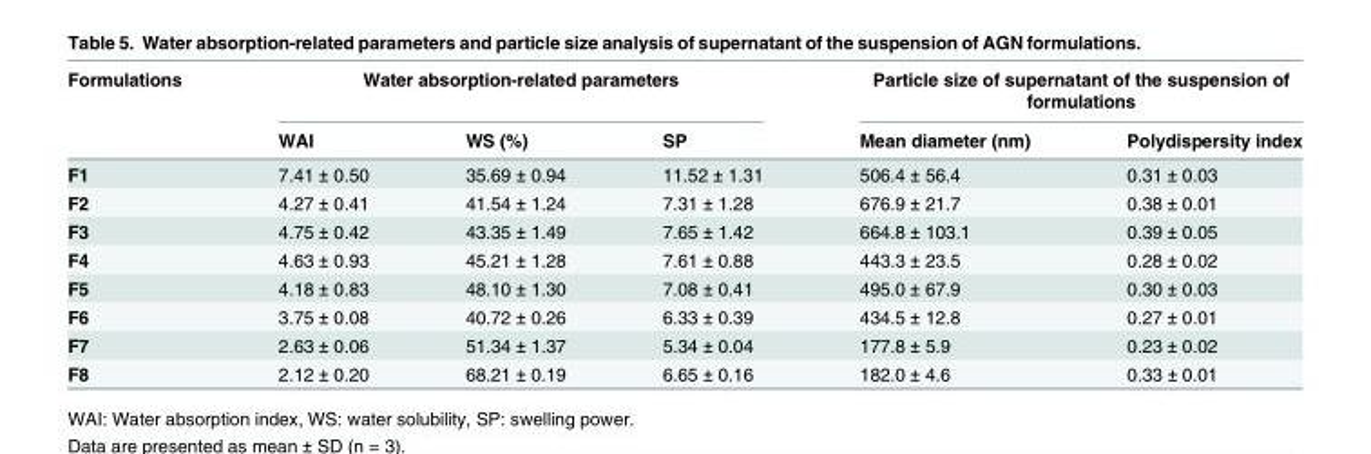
<table><thead><tr><td rowspan="2">Formulations</td><td colspan="3">Water absorption-related parameters</td><td colspan="2">Particle size of supernatant of the suspension of formulations</td></tr><tr><td>WAI</td><td>WS (%)</td><td>SP</td><td>Mean diameter (nm)</td><td>Polydispersity index</td></tr></thead><tbody><tr><td>F1</td><td>7.41 ± 0.50</td><td>35.69 ± 0.94</td><td>11.52 ± 1.31</td><td>506.4 ± 56.4</td><td>0.31 ± 0.03</td></tr><tr><td>F2</td><td>4.27 ± 0.41</td><td>41.54 ± 1.24</td><td>7.31 ± 1.28</td><td>676.9 ± 21.7</td><td>0.38 ± 0.01</td></tr><tr><td>F3</td><td>4.75 ± 0.42</td><td>43.35 ± 1.49</td><td>7.65 ± 1.42</td><td>664.8 ± 103.1</td><td>0.39 ± 0.05</td></tr><tr><td>F4</td><td>4.63 ± 0.93</td><td>45.21 ± 1.28</td><td>7.61 ± 0.88</td><td>443.3 ± 23.5</td><td>0.28 ± 0.02</td></tr><tr><td>F5</td><td>4.18 ± 0.83</td><td>48.10 ± 1.30</td><td>7.08 ± 0.41</td><td>495.0 ± 67.9</td><td>0.30 ± 0.03</td></tr><tr><td>F6</td><td>3.75 ± 0.08</td><td>40.72 ± 0.26</td><td>6.33 ± 0.39</td><td>434.5 ± 12.8</td><td>0.27 ± 0.01</td></tr><tr><td>F7</td><td>2.63 ± 0.06</td><td>51.34 ± 1.37</td><td>5.34 ± 0.04</td><td>177.8 ± 5.9</td><td>0.23 ± 0.02</td></tr><tr><td>F8</td><td>2.12 ± 0.20</td><td>68.21 ± 0.19</td><td>6.65 ± 0.16</td><td>182.0 ± 4.6</td><td>0.33 ± 0.01</td></tr></tbody></table>